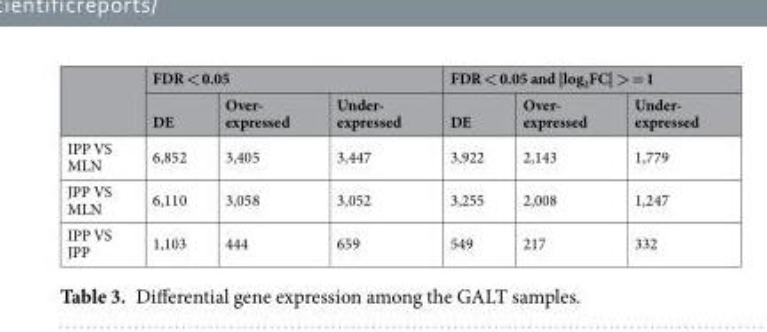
<table><thead><tr><td rowspan="2"></td><td colspan="3">FDR &lt; 0.05</td><td colspan="3">FDR &lt; 0.05 and |log<sub>2</sub>FC| &gt; = 1</td></tr><tr><td>DE</td><td>Over- expressed</td><td>Under- expressed</td><td>DE</td><td>Over- expressed</td><td>Under- expressed</td></tr></thead><tbody><tr><td>IPP VS MLN</td><td>6,852</td><td>3,405</td><td>3,447</td><td>3,922</td><td>2,143</td><td>1,779</td></tr><tr><td>JPP VS MLN</td><td>6,110</td><td>3,058</td><td>3,052</td><td>3,255</td><td>2,008</td><td>1,247</td></tr><tr><td>IPP VS JPP</td><td>1,103</td><td>444</td><td>659</td><td>549</td><td>217</td><td>332</td></tr></tbody></table>